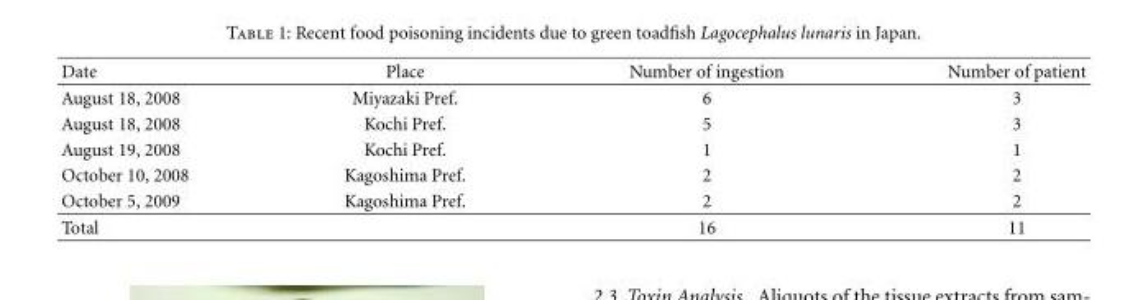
<table><thead><tr><td>Date</td><td>Place</td><td>Number of ingestion</td><td>Number of patient</td></tr></thead><tbody><tr><td>August 18, 2008</td><td>Miyazaki Pref.</td><td>6</td><td>3</td></tr><tr><td>August 18, 2008</td><td>Kochi Pref.</td><td>5</td><td>3</td></tr><tr><td>August 19, 2008</td><td>Kochi Pref.</td><td>1</td><td>1</td></tr><tr><td>October 10, 2008</td><td>Kagoshima Pref.</td><td>2</td><td>2</td></tr><tr><td>October 5, 2009</td><td>Kagoshima Pref.</td><td>2</td><td>2</td></tr><tr><td>Total</td><td></td><td>16</td><td>11</td></tr></tbody></table>